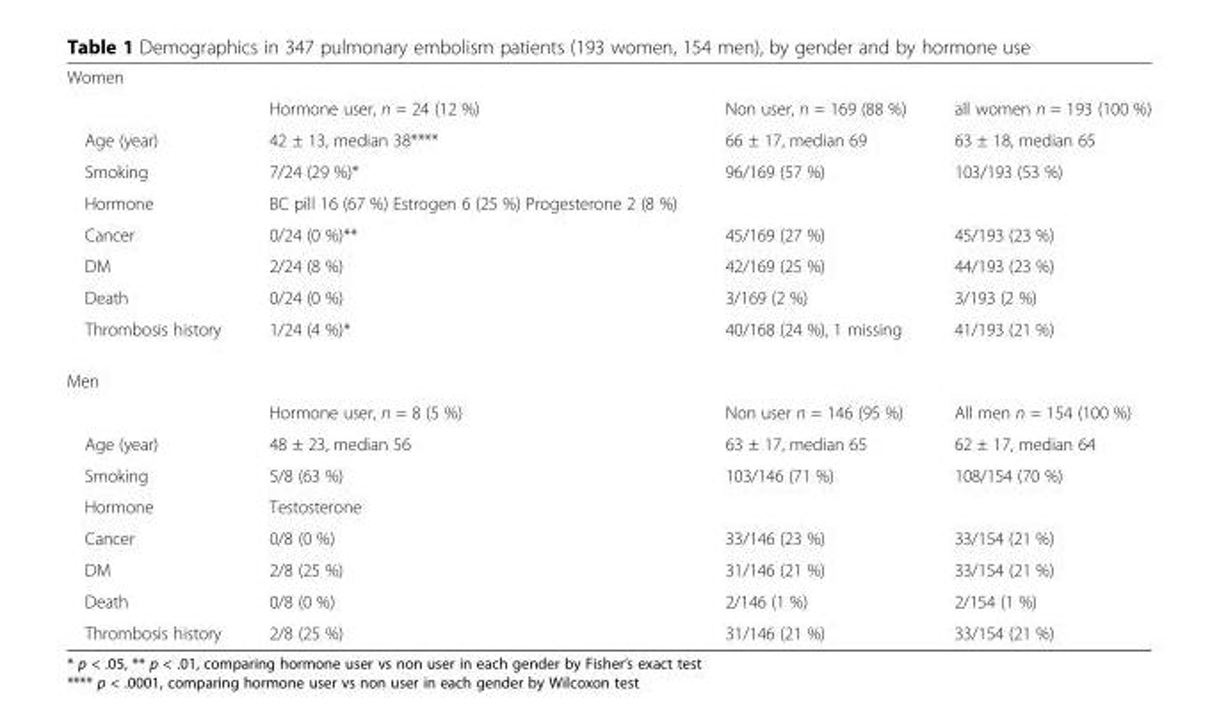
<table><tbody><tr><td colspan="4">Women</td></tr><tr><td></td><td>Hormone user, n = 24 (12 %)</td><td>Non user, n = 169 (88 %)</td><td>all women n = 193 (100 %)</td></tr><tr><td>Age (year)</td><td>42 ± 13, median 38****</td><td>66 ± 17, median 69</td><td>63 ± 18, median 65</td></tr><tr><td>Smoking</td><td>7/24 (29 %)*</td><td>96/169 (57 %)</td><td>103/193 (53 %)</td></tr><tr><td>Hormone</td><td>BC pill 16 (67 %) Estrogen 6 (25 %) Progesterone 2 (8 %)</td><td></td><td></td></tr><tr><td>Cancer</td><td>0/24 (0 %)**</td><td>45/169 (27 %)</td><td>45/193 (23 %)</td></tr><tr><td>DM</td><td>2/24 (8 %)</td><td>42/169 (25 %)</td><td>44/193 (23 %)</td></tr><tr><td>Death</td><td>0/24 (0 %)</td><td>3/169 (2 %)</td><td>3/193 (2 %)</td></tr><tr><td>Thrombosis history</td><td>1/24 (4 %)*</td><td>40/168 (24 %), 1 missing</td><td>41/193 (21 %)</td></tr><tr><td colspan="4">Men</td></tr><tr><td></td><td>Hormone user, n = 8 (5 %)</td><td>Non user n = 146 (95 %)</td><td>All men n = 154 (100 %)</td></tr><tr><td>Age (year)</td><td>48 ± 23, median 56</td><td>63 ± 17, median 65</td><td>62 ± 17, median 64</td></tr><tr><td>Smoking</td><td>5/8 (63 %)</td><td>103/146 (71 %)</td><td>108/154 (70 %)</td></tr><tr><td>Hormone</td><td>Testosterone</td><td></td><td></td></tr><tr><td>Cancer</td><td>0/8 (0 %)</td><td>33/146 (23 %)</td><td>33/154 (21 %)</td></tr><tr><td>DM</td><td>2/8 (25 %)</td><td>31/146 (21 %)</td><td>33/154 (21 %)</td></tr><tr><td>Death</td><td>0/8 (0 %)</td><td>2/146 (1 %)</td><td>2/154 (1 %)</td></tr><tr><td>Thrombosis history</td><td>2/8 (25 %)</td><td>31/146 (21 %)</td><td>33/154 (21 %)</td></tr></tbody></table>